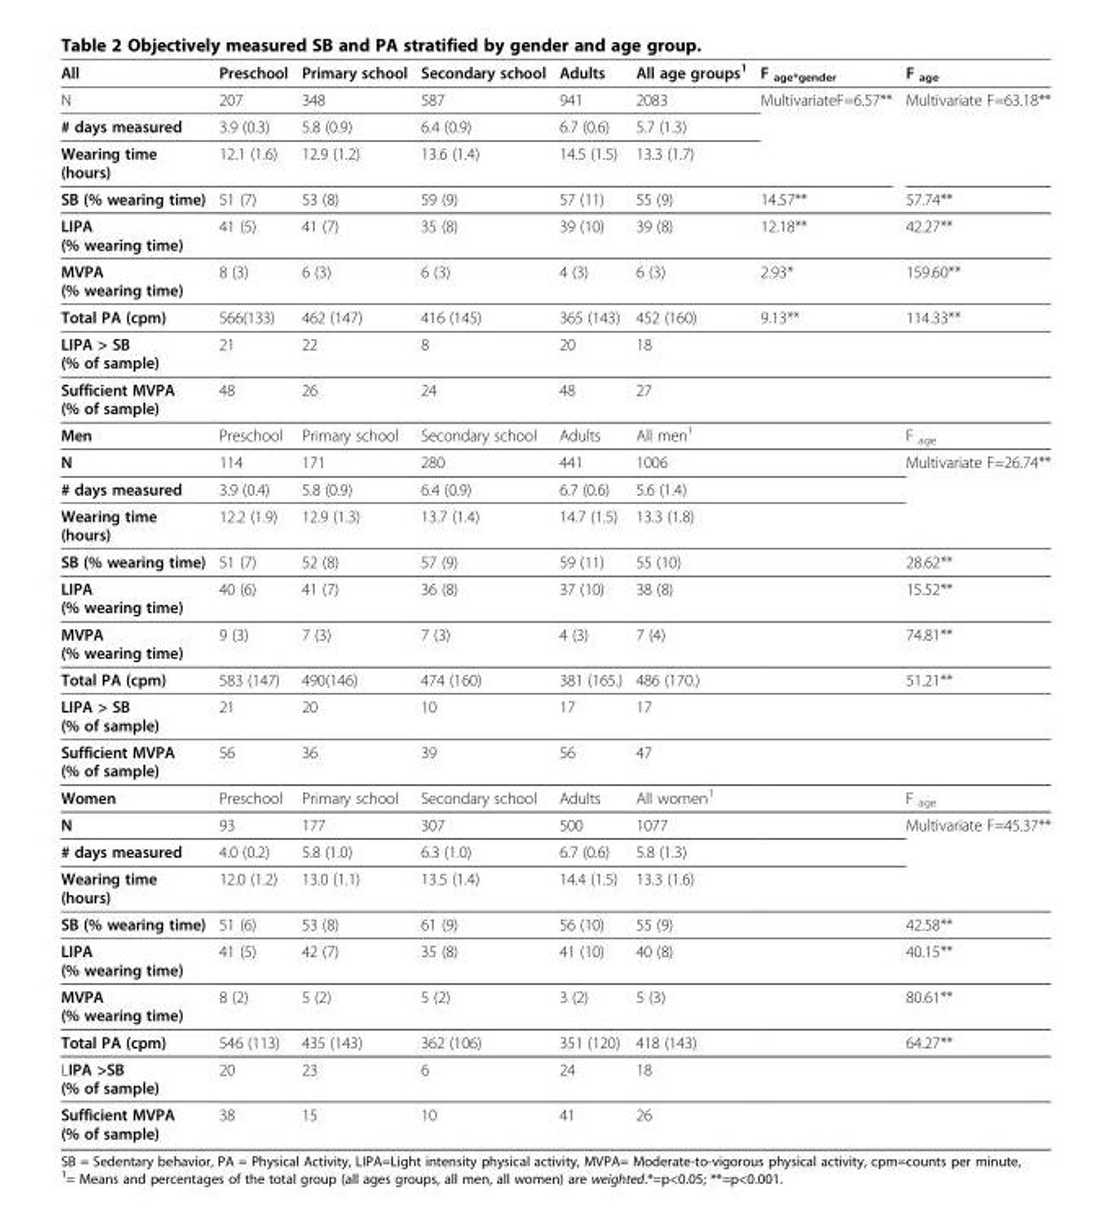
<table><tbody><tr><td>All</td><td>Preschool</td><td>Primary school</td><td>Secondary school</td><td>Adults</td><td>All age groups<sup>1</sup></td><td>F <sub>age*gender</sub></td><td>F <sub>age</sub></td></tr><tr><td>N</td><td>207</td><td>348</td><td>587</td><td>941</td><td>2083</td><td>MultivariateF=6.57**</td><td>Multivariate F=63.18**</td></tr><tr><td># days measured</td><td>3.9 (0.3)</td><td>5.8 (0.9)</td><td>6.4 (0.9)</td><td>6.7 (0.6)</td><td>5.7 (1.3)</td><td></td><td></td></tr><tr><td>Wearing time (hours)</td><td>12.1 (1.6)</td><td>12.9 (1.2)</td><td>13.6 (1.4)</td><td>14.5 (1.5)</td><td>13.3 (1.7)</td><td></td><td></td></tr><tr><td>SB (% wearing time)</td><td>51 (7)</td><td>53 (8)</td><td>59 (9)</td><td>57 (11)</td><td>55 (9)</td><td>14.57**</td><td>57.74**</td></tr><tr><td>LIPA (% wearing time)</td><td>41 (5)</td><td>41 (7)</td><td>35 (8)</td><td>39 (10)</td><td>39 (8)</td><td>12.18**</td><td>42.27**</td></tr><tr><td>MVPA (% wearing time)</td><td>8 (3)</td><td>6 (3)</td><td>6 (3)</td><td>4 (3)</td><td>6 (3)</td><td>2.93*</td><td>159.60**</td></tr><tr><td>Total PA (cpm)</td><td>566(133)</td><td>462 (147)</td><td>416 (145)</td><td>365 (143)</td><td>452 (160)</td><td>9.13**</td><td>114.33**</td></tr><tr><td>LIPA &gt; SB (% of sample)</td><td>21</td><td>22</td><td>8</td><td>20</td><td>18</td><td></td><td></td></tr><tr><td>Sufficient MVPA (% of sample)</td><td>48</td><td>26</td><td>24</td><td>48</td><td>27</td><td></td><td></td></tr><tr><td>Men</td><td>Preschool</td><td>Primary school</td><td>Secondary school</td><td>Adults</td><td>All men<sup>1</sup></td><td></td><td>F <sub>age</sub></td></tr><tr><td>N</td><td>114</td><td>171</td><td>280</td><td>441</td><td>1006</td><td></td><td>Multivariate F=26.74**</td></tr><tr><td># days measured</td><td>3.9 (0.4)</td><td>5.8 (0.9)</td><td>6.4 (0.9)</td><td>6.7 (0.6)</td><td>5.6 (1.4)</td><td></td><td></td></tr><tr><td>Wearing time (hours)</td><td>12.2 (1.9)</td><td>12.9 (1.3)</td><td>13.7 (1.4)</td><td>14.7 (1.5)</td><td>13.3 (1.8)</td><td></td><td></td></tr><tr><td>SB (% wearing time)</td><td>51 (7)</td><td>52 (8)</td><td>57 (9)</td><td>59 (11)</td><td>55 (10)</td><td></td><td>28.62**</td></tr><tr><td>LIPA (% wearing time)</td><td>40 (6)</td><td>41 (7)</td><td>36 (8)</td><td>37 (10)</td><td>38 (8)</td><td></td><td>15.52**</td></tr><tr><td>MVPA (% wearing time)</td><td>9 (3)</td><td>7 (3)</td><td>7 (3)</td><td>4 (3)</td><td>7 (4)</td><td></td><td>74.81**</td></tr><tr><td>Total PA (cpm)</td><td>583 (147)</td><td>490(146)</td><td>474 (160)</td><td>381 (165.)</td><td>486 (170.)</td><td></td><td>51.21**</td></tr><tr><td>LIPA &gt; SB (% of sample)</td><td>21</td><td>20</td><td>10</td><td>17</td><td>17</td><td></td><td></td></tr><tr><td>Sufficient MVPA (% of sample)</td><td>56</td><td>36</td><td>39</td><td>56</td><td>47</td><td></td><td></td></tr><tr><td>Women</td><td>Preschool</td><td>Primary school</td><td>Secondary school</td><td>Adults</td><td>All women<sup>1</sup></td><td></td><td>F <sub>age</sub></td></tr><tr><td>N</td><td>93</td><td>177</td><td>307</td><td>500</td><td>1077</td><td></td><td>Multivariate F=45.37**</td></tr><tr><td># days measured</td><td>4.0 (0.2)</td><td>5.8 (1.0)</td><td>6.3 (1.0)</td><td>6.7 (0.6)</td><td>5.8 (1.3)</td><td></td><td></td></tr><tr><td>Wearing time (hours)</td><td>12.0 (1.2)</td><td>13.0 (1.1)</td><td>13.5 (1.4)</td><td>14.4 (1.5)</td><td>13.3 (1.6)</td><td></td><td></td></tr><tr><td>SB (% wearing time)</td><td>51 (6)</td><td>53 (8)</td><td>61 (9)</td><td>56 (10)</td><td>55 (9)</td><td></td><td>42.58**</td></tr><tr><td>LIPA (% wearing time)</td><td>41 (5)</td><td>42 (7)</td><td>35 (8)</td><td>41 (10)</td><td>40 (8)</td><td></td><td>40.15**</td></tr><tr><td>MVPA (% wearing time)</td><td>8 (2)</td><td>5 (2)</td><td>5 (2)</td><td>3 (2)</td><td>5 (3)</td><td></td><td>80.61**</td></tr><tr><td>Total PA (cpm)</td><td>546 (113)</td><td>435 (143)</td><td>362 (106)</td><td>351 (120)</td><td>418 (143)</td><td></td><td>64.27**</td></tr><tr><td>LIPA &gt;SB (% of sample)</td><td>20</td><td>23</td><td>6</td><td>24</td><td>18</td><td></td><td></td></tr><tr><td>Sufficient MVPA (% of sample)</td><td>38</td><td>15</td><td>10</td><td>41</td><td>26</td><td></td><td></td></tr></tbody></table>